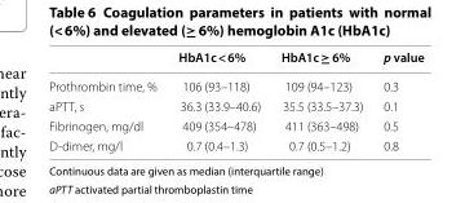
<table><thead><tr><td></td><td>HbA1c &lt; 6%</td><td>HbA1c ≥ 6%</td><td>p value</td></tr></thead><tbody><tr><td>Prothrombin time, %</td><td>106 (93–118)</td><td>109 (94–123)</td><td>0.3</td></tr><tr><td>aPTT, s</td><td>36.3 (33.9–40.6)</td><td>35.5 (33.5–37.3)</td><td>0.1</td></tr><tr><td>Fibrinogen, mg/dl</td><td>409 (354–478)</td><td>411 (363–498)</td><td>0.5</td></tr><tr><td>D-dimer, mg/l</td><td>0.7 (0.4–1.3)</td><td>0.7 (0.5–1.2)</td><td>0.8</td></tr></tbody></table>